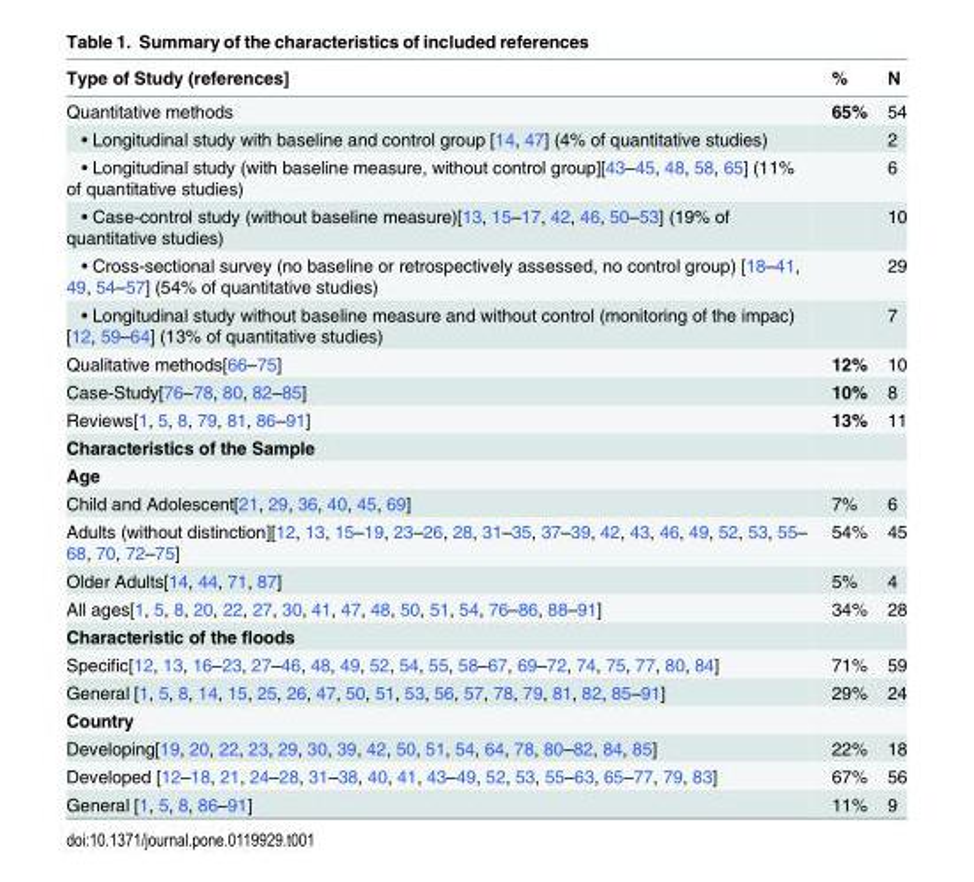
<table><thead><tr><td>Type of Study (references]</td><td>%</td><td>N</td></tr></thead><tbody><tr><td>Quantitative methods</td><td>65%</td><td>54</td></tr><tr><td>• Longitudinal study with baseline and control group [14, 47] (4% of quantitative studies)</td><td></td><td>2</td></tr><tr><td>• Longitudinal study (with baseline measure, without control group][43–45, 48, 58, 65] (11% of quantitative studies)</td><td></td><td>6</td></tr><tr><td>• Case-control study (without baseline measure)[13, 15–17, 42, 46, 50–53] (19% of quantitative studies)</td><td></td><td>10</td></tr><tr><td>• Cross-sectional survey (no baseline or retrospectively assessed, no control group) [18–41, 49, 54–57] (54% of quantitative studies)</td><td></td><td>29</td></tr><tr><td>• Longitudinal study without baseline measure and without control (monitoring of the impac) [12, 59–64] (13% of quantitative studies)</td><td></td><td>7</td></tr><tr><td>Qualitative methods[66–75]</td><td>12%</td><td>10</td></tr><tr><td>Case-Study[76–78, 80, 82–85]</td><td>10%</td><td>8</td></tr><tr><td>Reviews[1, 5, 8, 79, 81, 86–91]</td><td>13%</td><td>11</td></tr><tr><td colspan="3">Characteristics of the Sample</td></tr><tr><td colspan="3">Age</td></tr><tr><td>Child and Adolescent[21, 29, 36, 40, 45, 69]</td><td>7%</td><td>6</td></tr><tr><td>Adults (without distinction][12, 13, 15–19, 23–26, 28, 31–35, 37–39, 42, 43, 46, 49, 52, 53, 55– 68, 70, 72–75]</td><td>54%</td><td>45</td></tr><tr><td>Older Adults[14, 44, 71, 87]</td><td>5%</td><td>4</td></tr><tr><td>All ages[1, 5, 8, 20, 22, 27, 30, 41, 47, 48, 50, 51, 54, 76–86, 88–91]</td><td>34%</td><td>28</td></tr><tr><td colspan="3">Characteristic of the floods</td></tr><tr><td>Specific[12, 13, 16–23, 27–46, 48, 49, 52, 54, 55, 58–67, 69–72, 74, 75, 77, 80, 84]</td><td>71%</td><td>59</td></tr><tr><td>General [1, 5, 8, 14, 15, 25, 26, 47, 50, 51, 53, 56, 57, 78, 79, 81, 82, 85–91]</td><td>29%</td><td>24</td></tr><tr><td colspan="3">Country</td></tr><tr><td>Developing[19, 20, 22, 23, 29, 30, 39, 42, 50, 51, 54, 64, 78, 80–82, 84, 85]</td><td>22%</td><td>18</td></tr><tr><td>Developed [12–18, 21, 24–28, 31–38, 40, 41, 43–49, 52, 53, 55–63, 65–77, 79, 83]</td><td>67%</td><td>56</td></tr><tr><td>General [1, 5, 8, 86–91]</td><td>11%</td><td>9</td></tr></tbody></table>